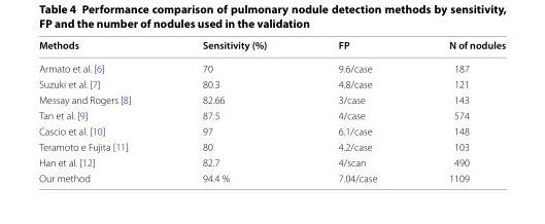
<table><thead><tr><td>Methods</td><td>Sensitivity (%)</td><td>FP</td><td>N of nodules</td></tr></thead><tbody><tr><td>Armato et al. [6]</td><td>70</td><td>9.6/case</td><td>187</td></tr><tr><td>Suzuki et al. [7]</td><td>80.3</td><td>4.8/case</td><td>121</td></tr><tr><td>Messay and Rogers [8]</td><td>82.66</td><td>3/case</td><td>143</td></tr><tr><td>Tan et al. [9]</td><td>87.5</td><td>4/case</td><td>574</td></tr><tr><td>Cascio et al. [10]</td><td>97</td><td>6.1/case</td><td>148</td></tr><tr><td>Teramoto e Fujita [11]</td><td>80</td><td>4.2/case</td><td>103</td></tr><tr><td>Han et al. [12]</td><td>82.7</td><td>4/scan</td><td>490</td></tr><tr><td>Our method</td><td>94.4 %</td><td>7.04/case</td><td>1109</td></tr></tbody></table>